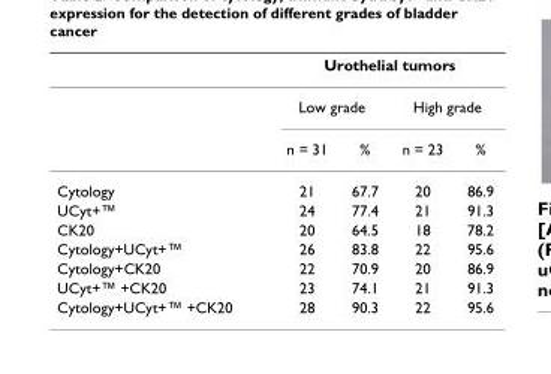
<table><thead><tr><td rowspan="3"></td><td colspan="4">Urothelial tumors</td></tr><tr><td colspan="2">Low grade</td><td colspan="2">High grade</td></tr><tr><td>n = 31</td><td>%</td><td>n = 23</td><td>%</td></tr></thead><tbody><tr><td>Cytology</td><td>21</td><td>67.7</td><td>20</td><td>86.9</td></tr><tr><td>UCyt+™</td><td>24</td><td>77.4</td><td>21</td><td>91.3</td></tr><tr><td>CK20</td><td>20</td><td>64.5</td><td>18</td><td>78.2</td></tr><tr><td>Cytology+UCyt+™</td><td>26</td><td>83.8</td><td>22</td><td>95.6</td></tr><tr><td>Cytology+CK20</td><td>22</td><td>70.9</td><td>20</td><td>86.9</td></tr><tr><td>UCyt+™ +CK20</td><td>23</td><td>74.1</td><td>21</td><td>91.3</td></tr><tr><td>Cytology+UCyt+™ +CK20</td><td>28</td><td>90.3</td><td>22</td><td>95.6</td></tr></tbody></table>